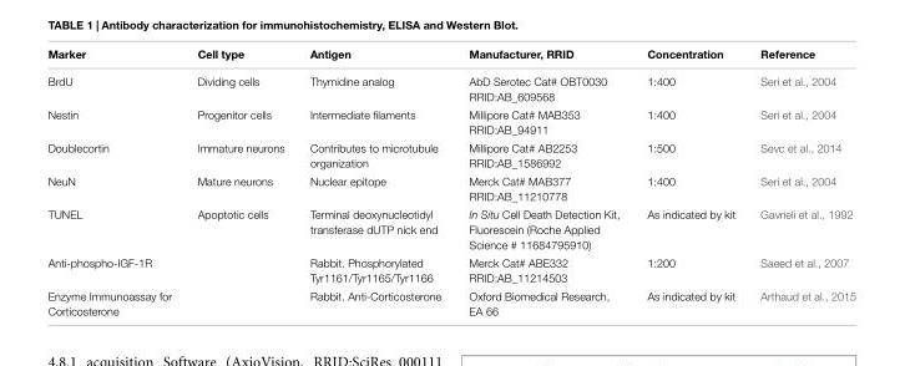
<table><thead><tr><td>Marker</td><td>Cell type</td><td>Antigen</td><td>Manufacturer, RRID</td><td>Concentration</td><td>Reference</td></tr></thead><tbody><tr><td>BrdU</td><td>Dividing cells</td><td>Thymidine analog</td><td>AbD Serotec Cat# OBT0030 RRID:AB_609568</td><td>1:400</td><td>Seri et al., 2004</td></tr><tr><td>Nestin</td><td>Progenitor cells</td><td>Intermediate filaments</td><td>Millipore Cat# MAB353 RRID:AB_94911</td><td>1:400</td><td>Seri et al., 2004</td></tr><tr><td>Doublecortin</td><td>Immature neurons</td><td>Contributes to microtubule organization</td><td>Millipore Cat# AB2253 RRID:AB_1586992</td><td>1:500</td><td>Sevc et al., 2014</td></tr><tr><td>NeuN</td><td>Mature neurons</td><td>Nuclear epitope</td><td>Merck Cat# MAB377 RRID:AB_11210778</td><td>1:400</td><td>Seri et al., 2004</td></tr><tr><td>TUNEL</td><td>Apoptotic cells</td><td>Terminal deoxynucleotidyl transferase dUTP nick end</td><td>In Situ Cell Death Detection Kit, Fluorescein (Roche Applied Science # 11684795910)</td><td>As indicated by kit</td><td>Gavrieli et al., 1992</td></tr><tr><td>Anti-phospho-IGF-1R</td><td></td><td>Rabbit. Phosphorylated Tyr1161/Tyr1165/Tyr1166</td><td>Merck Cat# ABE332 RRID:AB_11214503</td><td>1:200</td><td>Saeed et al., 2007</td></tr><tr><td>Enzyme Immunoassay for Corticosterone</td><td></td><td>Rabbit. Anti-Corticosterone</td><td>Oxford Biomedical Research, EA 66</td><td>As indicated by kit</td><td>Arthaud et al., 2015</td></tr></tbody></table>